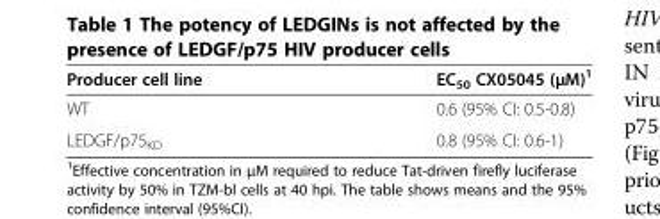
<table><thead><tr><td>Producer cell line</td><td>EC<sub>50</sub> CX05045 (μM)<sup>1</sup></td></tr></thead><tbody><tr><td>WT</td><td>0.6 (95% CI: 0.5-0.8)</td></tr><tr><td>LEDGF/p75<sub>KD</sub></td><td>0.8 (95% CI: 0.6-1)</td></tr></tbody></table>